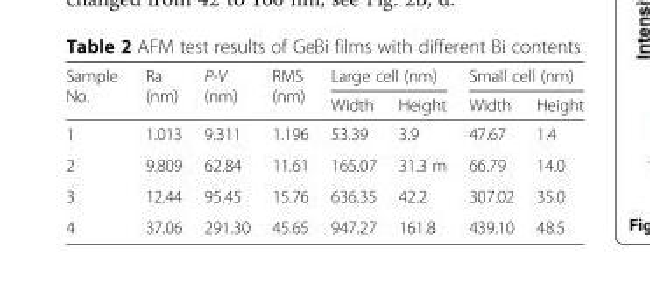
<table><thead><tr><td rowspan="2">Sample No.</td><td rowspan="2">Ra (nm)</td><td rowspan="2">P-V (nm)</td><td rowspan="2">RMS (nm)</td><td colspan="2">Large cell (nm)</td><td colspan="2">Small cell (nm)</td></tr><tr><td>Width</td><td>Height</td><td>Width</td><td>Height</td></tr></thead><tbody><tr><td>1</td><td>1.013</td><td>9.311</td><td>1.196</td><td>53.39</td><td>3.9</td><td>47.67</td><td>1.4</td></tr><tr><td>2</td><td>9.809</td><td>62.84</td><td>11.61</td><td>165.07</td><td>31.3 m</td><td>66.79</td><td>14.0</td></tr><tr><td>3</td><td>12.44</td><td>95.45</td><td>15.76</td><td>636.35</td><td>42.2</td><td>307.02</td><td>35.0</td></tr><tr><td>4</td><td>37.06</td><td>291.30</td><td>45.65</td><td>947.27</td><td>161.8</td><td>439.10</td><td>48.5</td></tr></tbody></table>